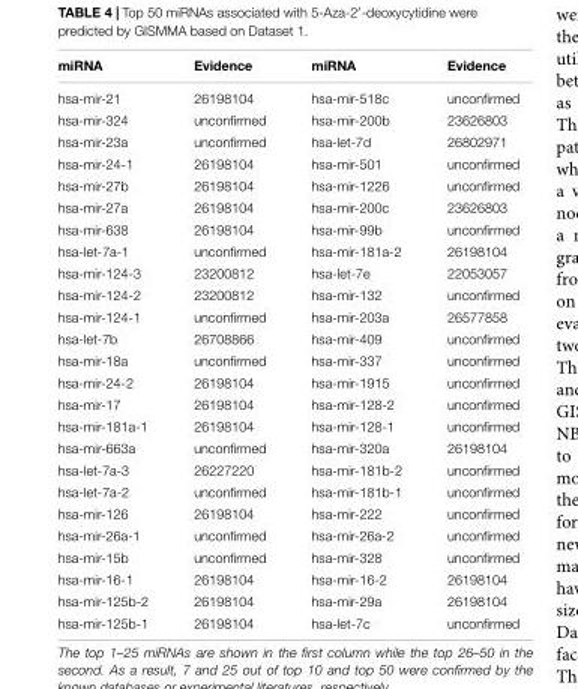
<table><thead><tr><td>miRNA</td><td>Evidence</td><td>miRNA</td><td>Evidence</td></tr></thead><tbody><tr><td>hsa-mir-21</td><td>26198104</td><td>hsa-mir-518c</td><td>unconfirmed</td></tr><tr><td>hsa-mir-324</td><td>unconfirmed</td><td>hsa-mir-200b</td><td>23626803</td></tr><tr><td>hsa-mir-23a</td><td>unconfirmed</td><td>hsa-let-7d</td><td>26802971</td></tr><tr><td>hsa-mir-24-1</td><td>26198104</td><td>hsa-mir-501</td><td>unconfirmed</td></tr><tr><td>hsa-mir-27b</td><td>26198104</td><td>hsa-mir-1226</td><td>unconfirmed</td></tr><tr><td>hsa-mir-27a</td><td>26198104</td><td>hsa-mir-200c</td><td>23626803</td></tr><tr><td>hsa-mir-638</td><td>26198104</td><td>hsa-mir-99b</td><td>unconfirmed</td></tr><tr><td>hsa-let-7a-1</td><td>unconfirmed</td><td>hsa-mir-181a-2</td><td>26198104</td></tr><tr><td>hsa-mir-124-3</td><td>23200812</td><td>hsa-let-7e</td><td>22053057</td></tr><tr><td>hsa-mir-124-2</td><td>23200812</td><td>hsa-mir-132</td><td>unconfirmed</td></tr><tr><td>hsa-mir-124-1</td><td>unconfirmed</td><td>hsa-mir-203a</td><td>26577858</td></tr><tr><td>hsa-let-7b</td><td>26708866</td><td>hsa-mir-409</td><td>unconfirmed</td></tr><tr><td>hsa-mir-18a</td><td>unconfirmed</td><td>hsa-mir-337</td><td>unconfirmed</td></tr><tr><td>hsa-mir-24-2</td><td>26198104</td><td>hsa-mir-1915</td><td>unconfirmed</td></tr><tr><td>hsa-mir-17</td><td>26198104</td><td>hsa-mir-128-2</td><td>unconfirmed</td></tr><tr><td>hsa-mir-181a-1</td><td>26198104</td><td>hsa-mir-128-1</td><td>unconfirmed</td></tr><tr><td>hsa-mir-663a</td><td>unconfirmed</td><td>hsa-mir-320a</td><td>26198104</td></tr><tr><td>hsa-let-7a-3</td><td>26227220</td><td>hsa-mir-181b-2</td><td>unconfirmed</td></tr><tr><td>hsa-let-7a-2</td><td>unconfirmed</td><td>hsa-mir-181b-1</td><td>unconfirmed</td></tr><tr><td>hsa-mir-126</td><td>26198104</td><td>hsa-mir-222</td><td>unconfirmed</td></tr><tr><td>hsa-mir-26a-1</td><td>unconfirmed</td><td>hsa-mir-26a-2</td><td>unconfirmed</td></tr><tr><td>hsa-mir-15b</td><td>unconfirmed</td><td>hsa-mir-328</td><td>unconfirmed</td></tr><tr><td>hsa-mir-16-1</td><td>26198104</td><td>hsa-mir-16-2</td><td>26198104</td></tr><tr><td>hsa-mir-125b-2</td><td>26198104</td><td>hsa-mir-29a</td><td>26198104</td></tr><tr><td>hsa-mir-125b-1</td><td>26198104</td><td>hsa-let-7c</td><td>unconfirmed</td></tr></tbody></table>